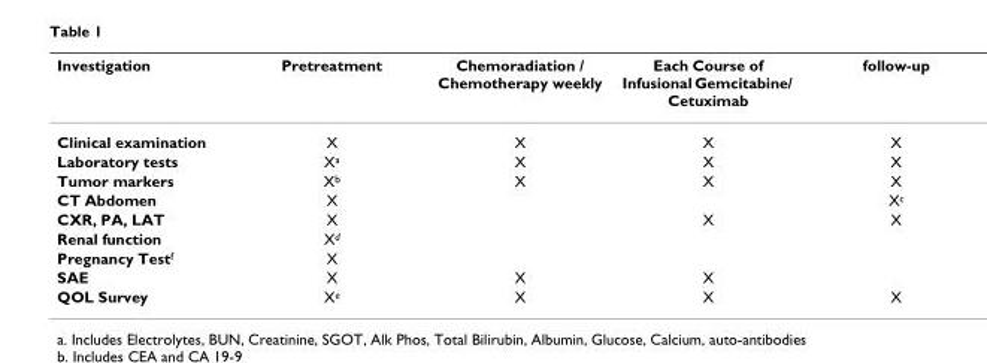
<table><thead><tr><td>Investigation</td><td>Pretreatment</td><td>Chemoradiation / Chemotherapy weekly</td><td>Each Course of Infusional Gemcitabine/ Cetuximab</td><td>follow-up</td></tr></thead><tbody><tr><td>Clinical examination</td><td>X</td><td>X</td><td>X</td><td>X</td></tr><tr><td>Laboratory tests</td><td>X<sup>a</sup></td><td>X</td><td>X</td><td>X</td></tr><tr><td>Tumor markers</td><td>X<sup>b</sup></td><td>X</td><td>X</td><td>X</td></tr><tr><td>CT Abdomen</td><td>X</td><td></td><td></td><td>X<sup>c</sup></td></tr><tr><td>CXR, PA, LAT</td><td>X</td><td></td><td>X</td><td>X</td></tr><tr><td>Renal function</td><td>X<sup>d</sup></td><td></td><td></td><td></td></tr><tr><td>Pregnancy Test<sup>f</sup></td><td>X</td><td></td><td></td><td></td></tr><tr><td>SAE</td><td>X</td><td>X</td><td>X</td><td></td></tr><tr><td>QOL Survey</td><td>X<sup>e</sup></td><td>X</td><td>X</td><td>X</td></tr></tbody></table>